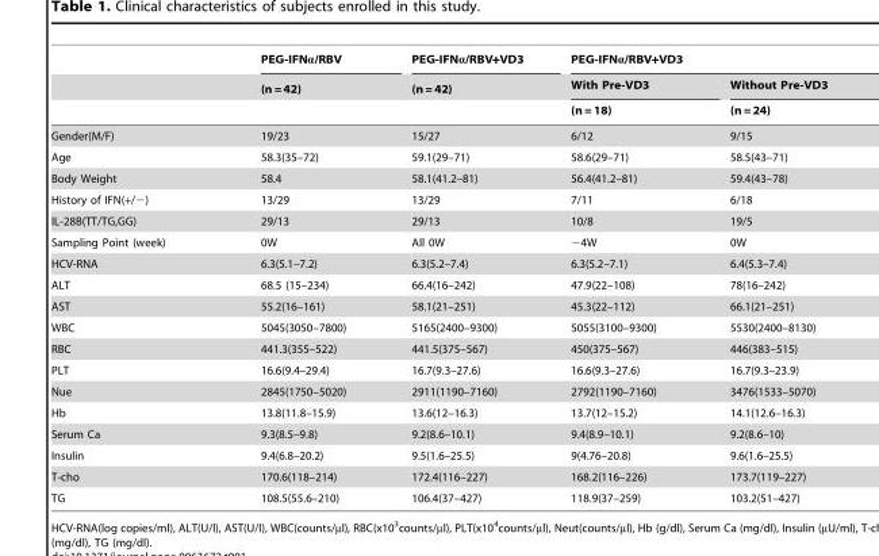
<table><thead><tr><td rowspan="3"></td><td rowspan="3">PEG-IFNα/RBV (n = 42)</td><td rowspan="3">PEG-IFNα/RBV+VD3 (n = 42)</td><td colspan="2">PEG-IFNα/RBV+VD3</td></tr><tr><td rowspan="2">With Pre-VD3 (n = 18)</td><td rowspan="2">Without Pre-VD3 (n = 24)</td></tr><tr></tr></thead><tbody><tr><td>Gender(M/F)</td><td>19/23</td><td>15/27</td><td>6/12</td><td>9/15</td></tr><tr><td>Age</td><td>58.3(35–72)</td><td>59.1(29–71)</td><td>58.6(29–71)</td><td>58.5(43–71)</td></tr><tr><td>Body Weight</td><td>58.4</td><td>58.1(41.2–81)</td><td>56.4(41.2–81)</td><td>59.4(43–78)</td></tr><tr><td>History of IFN(+/−)</td><td>13/29</td><td>13/29</td><td>7/11</td><td>6/18</td></tr><tr><td>IL-28B(TT/TG,GG)</td><td>29/13</td><td>29/13</td><td>10/8</td><td>19/5</td></tr><tr><td>Sampling Point (week)</td><td>0W</td><td>All 0W</td><td>−4W</td><td>0W</td></tr><tr><td>HCV-RNA</td><td>6.3(5.1–7.2)</td><td>6.3(5.2–7.4)</td><td>6.3(5.2–7.1)</td><td>6.4(5.3–7.4)</td></tr><tr><td>ALT</td><td>68.5 (15–234)</td><td>66.4(16–242)</td><td>47.9(22–108)</td><td>78(16–242)</td></tr><tr><td>AST</td><td>55.2(16–161)</td><td>58.1(21–251)</td><td>45.3(22–112)</td><td>66.1(21–251)</td></tr><tr><td>WBC</td><td>5045(3050–7800)</td><td>5165(2400–9300)</td><td>5055(3100–9300)</td><td>5530(2400–8130)</td></tr><tr><td>RBC</td><td>441.3(355–522)</td><td>441.5(375–567)</td><td>450(375–567)</td><td>446(383–515)</td></tr><tr><td>PLT</td><td>16.6(9.4–29.4)</td><td>16.7(9.3–27.6)</td><td>16.6(9.3–27.6)</td><td>16.7(9.3–23.9)</td></tr><tr><td>Nue</td><td>2845(1750–5020)</td><td>2911(1190–7160)</td><td>2792(1190–7160)</td><td>3476(1533–5070)</td></tr><tr><td>Hb</td><td>13.8(11.8–15.9)</td><td>13.6(12–16.3)</td><td>13.7(12–15.2)</td><td>14.1(12.6–16.3)</td></tr><tr><td>Serum Ca</td><td>9.3(8.5–9.8)</td><td>9.2(8.6–10.1)</td><td>9.4(8.9–10.1)</td><td>9.2(8.6–10)</td></tr><tr><td>Insulin</td><td>9.4(6.8–20.2)</td><td>9.5(1.6–25.5)</td><td>9(4.76–20.8)</td><td>9.6(1.6–25.5)</td></tr><tr><td>T-cho</td><td>170.6(118–214)</td><td>172.4(116–227)</td><td>168.2(116–226)</td><td>173.7(119–227)</td></tr><tr><td>TG</td><td>108.5(55.6–210)</td><td>106.4(37–427)</td><td>118.9(37–259)</td><td>103.2(51–427)</td></tr></tbody></table>